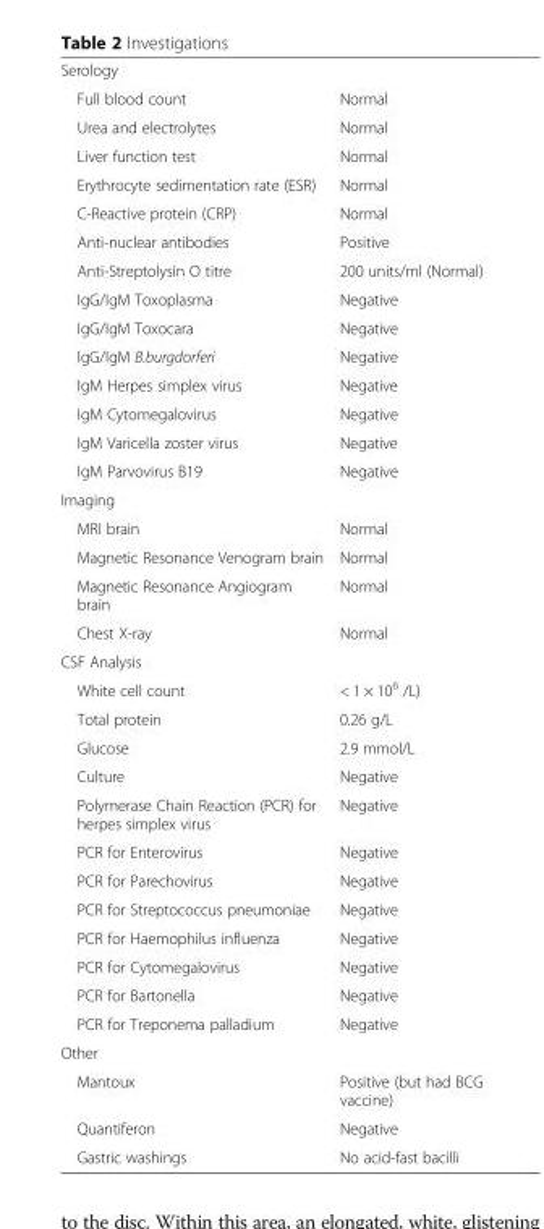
<table><tbody><tr><td colspan="2">Serology</td></tr><tr><td>Full blood count</td><td>Normal</td></tr><tr><td>Urea and electrolytes</td><td>Normal</td></tr><tr><td>Liver function test</td><td>Normal</td></tr><tr><td>Erythrocyte sedimentation rate (ESR)</td><td>Normal</td></tr><tr><td>C-Reactive protein (CRP)</td><td>Normal</td></tr><tr><td>Anti-nuclear antibodies</td><td>Positive</td></tr><tr><td>Anti-Streptolysin O titre</td><td>200 units/ml (Normal)</td></tr><tr><td>IgG/IgM Toxoplasma</td><td>Negative</td></tr><tr><td>IgG/IgM Toxocara</td><td>Negative</td></tr><tr><td>IgG/IgM B.burgdorferi</td><td>Negative</td></tr><tr><td>IgM Herpes simplex virus</td><td>Negative</td></tr><tr><td>IgM Cytomegalovirus</td><td>Negative</td></tr><tr><td>IgM Varicella zoster virus</td><td>Negative</td></tr><tr><td>IgM Parvovirus B19</td><td>Negative</td></tr><tr><td colspan="2">Imaging</td></tr><tr><td>MRI brain</td><td>Normal</td></tr><tr><td>Magnetic Resonance Venogram brain</td><td>Normal</td></tr><tr><td>Magnetic Resonance Angiogram brain</td><td>Normal</td></tr><tr><td>Chest X-ray</td><td>Normal</td></tr><tr><td colspan="2">CSF Analysis</td></tr><tr><td>White cell count</td><td>&lt; 1 × 10<sup>6</sup> /L)</td></tr><tr><td>Total protein</td><td>0.26 g/L</td></tr><tr><td>Glucose</td><td>2.9 mmol/L</td></tr><tr><td>Culture</td><td>Negative</td></tr><tr><td>Polymerase Chain Reaction (PCR) for herpes simplex virus</td><td>Negative</td></tr><tr><td>PCR for Enterovirus</td><td>Negative</td></tr><tr><td>PCR for Parechovirus</td><td>Negative</td></tr><tr><td>PCR for Streptococcus pneumoniae</td><td>Negative</td></tr><tr><td>PCR for Haemophilus influenza</td><td>Negative</td></tr><tr><td>PCR for Cytomegalovirus</td><td>Negative</td></tr><tr><td>PCR for Bartonella</td><td>Negative</td></tr><tr><td>PCR for Treponema palladium</td><td>Negative</td></tr><tr><td colspan="2">Other</td></tr><tr><td>Mantoux</td><td>Positive (but had BCG vaccine)</td></tr><tr><td>Quantiferon</td><td>Negative</td></tr><tr><td>Gastric washings</td><td>No acid-fast bacilli</td></tr></tbody></table>